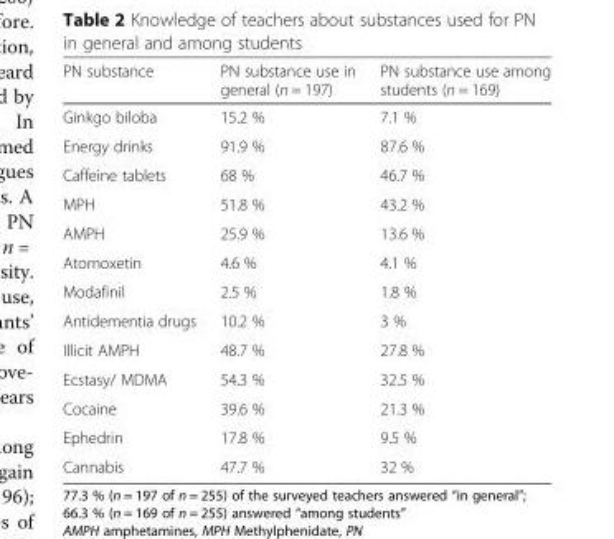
<table><thead><tr><td>PN substance</td><td>PN substance use in general (n = 197)</td><td>PN substance use among students (n = 169)</td></tr></thead><tbody><tr><td>Ginkgo biloba</td><td>15.2 %</td><td>7.1 %</td></tr><tr><td>Energy drinks</td><td>91.9 %</td><td>87.6 %</td></tr><tr><td>Caffeine tablets</td><td>68 %</td><td>46.7 %</td></tr><tr><td>MPH</td><td>51.8 %</td><td>43.2 %</td></tr><tr><td>AMPH</td><td>25.9 %</td><td>13.6 %</td></tr><tr><td>Atomoxetin</td><td>4.6 %</td><td>4.1 %</td></tr><tr><td>Modafinil</td><td>2.5 %</td><td>1.8 %</td></tr><tr><td>Antidementia drugs</td><td>10.2 %</td><td>3 %</td></tr><tr><td>Illicit AMPH</td><td>48.7 %</td><td>27.8 %</td></tr><tr><td>Ecstasy/ MDMA</td><td>54.3 %</td><td>32.5 %</td></tr><tr><td>Cocaine</td><td>39.6 %</td><td>21.3 %</td></tr><tr><td>Ephedrin</td><td>17.8 %</td><td>9.5 %</td></tr><tr><td>Cannabis</td><td>47.7 %</td><td>32 %</td></tr></tbody></table>